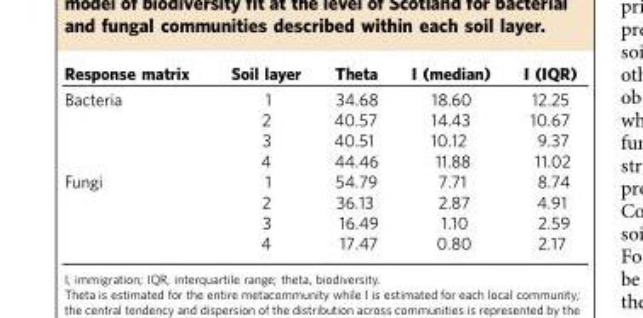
<table><thead><tr><td>Response matrix</td><td>Soil layer</td><td>Theta</td><td>I (median)</td><td>I (IQR)</td></tr></thead><tbody><tr><td rowspan="4">Bacteria</td><td>1</td><td>34.68</td><td>18.60</td><td>12.25</td></tr><tr><td>2</td><td>40.57</td><td>14.43</td><td>10.67</td></tr><tr><td>3</td><td>40.51</td><td>10.12</td><td>9.37</td></tr><tr><td>4</td><td>44.46</td><td>11.88</td><td>11.02</td></tr><tr><td rowspan="4">Fungi</td><td>1</td><td>54.79</td><td>7.71</td><td>8.74</td></tr><tr><td>2</td><td>36.13</td><td>2.87</td><td>4.91</td></tr><tr><td>3</td><td>16.49</td><td>1.10</td><td>2.59</td></tr><tr><td>4</td><td>17.47</td><td>0.80</td><td>2.17</td></tr></tbody></table>